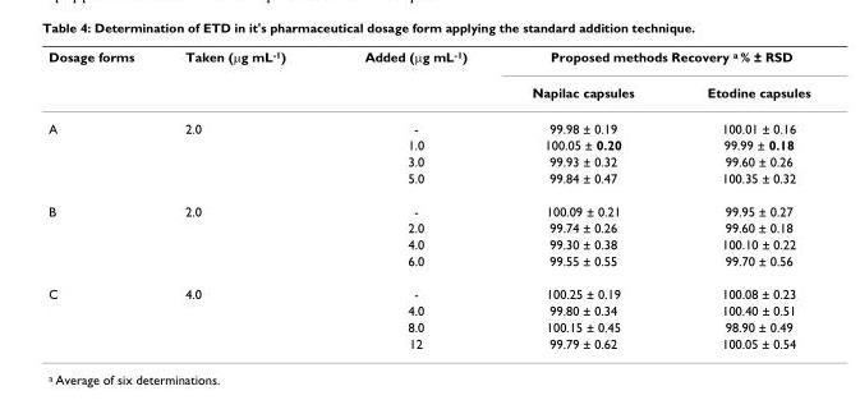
<table><thead><tr><td rowspan="2">Dosage forms</td><td rowspan="2">Taken (µg mL<sup>-1</sup>)</td><td rowspan="2">Added (µg mL<sup>-1</sup>)</td><td colspan="2">Proposed methods Recovery <sup>a</sup> % ± RSD</td></tr><tr><td>Napilac capsules</td><td>Etodine capsules</td></tr></thead><tbody><tr><td rowspan="4">A</td><td>2.0</td><td>-</td><td>99.98 ± 0.19</td><td>100.01 ± 0.16</td></tr><tr><td></td><td>1.0</td><td>100.05 ± 0.20</td><td>99.99 ± 0.18</td></tr><tr><td></td><td>3.0</td><td>99.93 ± 0.32</td><td>99.60 ± 0.26</td></tr><tr><td></td><td>5.0</td><td>99.84 ± 0.47</td><td>100.35 ± 0.32</td></tr><tr><td rowspan="4">B</td><td>2.0</td><td>-</td><td>100.09 ± 0.21</td><td>99.95 ± 0.27</td></tr><tr><td></td><td>2.0</td><td>99.74 ± 0.26</td><td>99.60 ± 0.18</td></tr><tr><td></td><td>4.0</td><td>99.30 ± 0.38</td><td>100.10 ± 0.22</td></tr><tr><td></td><td>6.0</td><td>99.55 ± 0.55</td><td>99.70 ± 0.56</td></tr><tr><td rowspan="4">C</td><td>4.0</td><td>-</td><td>100.25 ± 0.19</td><td>100.08 ± 0.23</td></tr><tr><td></td><td>4.0</td><td>99.80 ± 0.34</td><td>100.40 ± 0.51</td></tr><tr><td></td><td>8.0</td><td>100.15 ± 0.45</td><td>98.90 ± 0.49</td></tr><tr><td></td><td>12</td><td>99.79 ± 0.62</td><td>100.05 ± 0.54</td></tr></tbody></table>